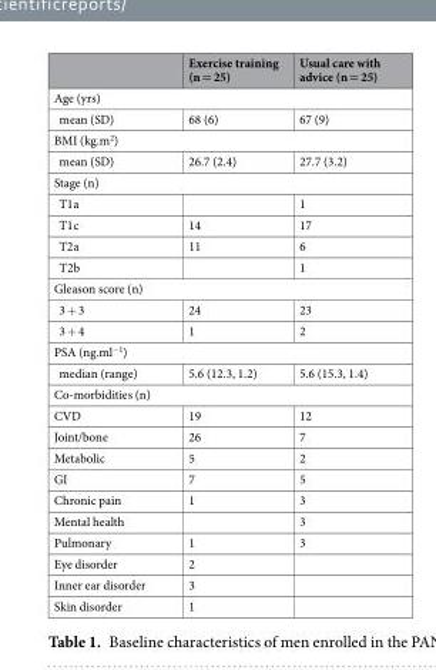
<table><thead><tr><td></td><td>Exercise training (n = 25)</td><td>Usual care with advice (n = 25)</td></tr></thead><tbody><tr><td colspan="3">Age (yrs)</td></tr><tr><td>mean (SD)</td><td>68 (6)</td><td>67 (9)</td></tr><tr><td colspan="3">BMI (kg.m<sup>2</sup>)</td></tr><tr><td>mean (SD)</td><td>26.7 (2.4)</td><td>27.7 (3.2)</td></tr><tr><td colspan="3">Stage (n)</td></tr><tr><td>T1a</td><td></td><td>1</td></tr><tr><td>T1c</td><td>14</td><td>17</td></tr><tr><td>T2a</td><td>11</td><td>6</td></tr><tr><td>T2b</td><td></td><td>1</td></tr><tr><td colspan="3">Gleason score (n)</td></tr><tr><td>3 + 3</td><td>24</td><td>23</td></tr><tr><td>3 + 4</td><td>1</td><td>2</td></tr><tr><td colspan="3">PSA (ng.ml<sup>−1</sup>)</td></tr><tr><td>median (range)</td><td>5.6 (12.3, 1.2)</td><td>5.6 (15.3, 1.4)</td></tr><tr><td colspan="3">Co-morbidities (n)</td></tr><tr><td>CVD</td><td>19</td><td>12</td></tr><tr><td>Joint/bone</td><td>26</td><td>7</td></tr><tr><td>Metabolic</td><td>5</td><td>2</td></tr><tr><td>GI</td><td>7</td><td>5</td></tr><tr><td>Chronic pain</td><td>1</td><td>3</td></tr><tr><td>Mental health</td><td></td><td>3</td></tr><tr><td>Pulmonary</td><td>1</td><td>3</td></tr><tr><td>Eye disorder</td><td>2</td><td></td></tr><tr><td>Inner ear disorder</td><td>3</td><td></td></tr><tr><td>Skin disorder</td><td>1</td><td></td></tr></tbody></table>